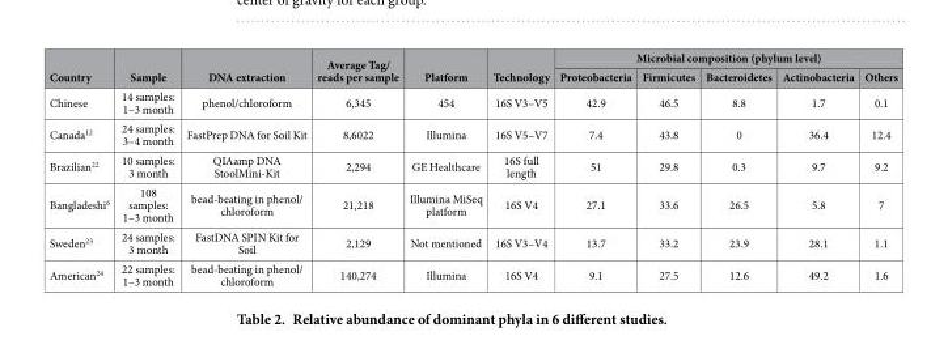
<table><thead><tr><td rowspan="2">Country</td><td rowspan="2">Sample</td><td rowspan="2">DNA extraction</td><td rowspan="2">Average Tag/ reads per sample</td><td rowspan="2">Platform</td><td rowspan="2">Technology</td><td colspan="5">Microbial composition (phylum level)</td></tr><tr><td>Proteobacteria</td><td>Firmicutes</td><td>Bacteroidetes</td><td>Actinobacteria</td><td>Others</td></tr></thead><tbody><tr><td>Chinese</td><td>14 samples: 1–3 month</td><td>phenol/chloroform</td><td>6,345</td><td>454</td><td>16S V3–V5</td><td>42.9</td><td>46.5</td><td>8.8</td><td>1.7</td><td>0.1</td></tr><tr><td>Canada<sup>12</sup></td><td>24 samples: 3–4 month</td><td>FastPrep DNA for Soil Kit</td><td>8,6022</td><td>Illumina</td><td>16S V5–V7</td><td>7.4</td><td>43.8</td><td>0</td><td>36.4</td><td>12.4</td></tr><tr><td>Brazilian<sup>22</sup></td><td>10 samples: 3 month</td><td>QIAamp DNA StoolMini-Kit</td><td>2,294</td><td>GE Healthcare</td><td>16S full length</td><td>51</td><td>29.8</td><td>0.3</td><td>9.7</td><td>9.2</td></tr><tr><td>Bangladeshi<sup>6</sup></td><td>108 samples: 1–3 month</td><td>bead-beating in phenol/ chloroform</td><td>21,218</td><td>Illumina MiSeq platform</td><td>16S V4</td><td>27.1</td><td>33.6</td><td>26.5</td><td>5.8</td><td>7</td></tr><tr><td>Sweden<sup>23</sup></td><td>24 samples: 3 month</td><td>FastDNA SPIN Kit for Soil</td><td>2,129</td><td>Not mentioned</td><td>16S V3–V4</td><td>13.7</td><td>33.2</td><td>23.9</td><td>28.1</td><td>1.1</td></tr><tr><td>American<sup>24</sup></td><td>22 samples: 1–3 month</td><td>bead-beating in phenol/ chloroform</td><td>140,274</td><td>Illumina</td><td>16S V4</td><td>9.1</td><td>27.5</td><td>12.6</td><td>49.2</td><td>1.6</td></tr></tbody></table>